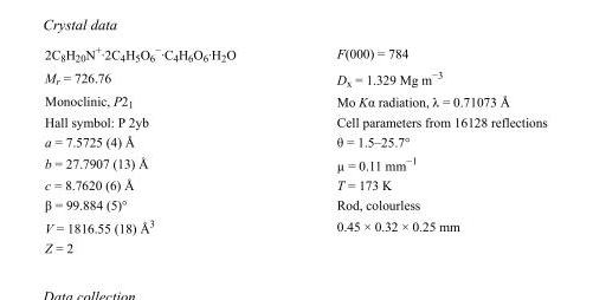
<table><tbody><tr><td>2C<sub>8</sub>H<sub>20</sub>N<sup>+</sup>·2C<sub>4</sub>H<sub>5</sub>O<sub>6</sub> <sup>−</sup>·C<sub>4</sub>H<sub>6</sub>O<sub>6</sub>·H<sub>2</sub>O</td><td>F(000) = 784</td></tr><tr><td>M<sub>r</sub> = 726.76</td><td>D<sub>x</sub> = 1.329 Mg m<sup>−3</sup></td></tr><tr><td>Monoclinic, P2<sub>1</sub></td><td>Mo Kα radiation, λ = 0.71073 Å</td></tr><tr><td>Hall symbol: P 2yb</td><td>Cell parameters from 16128 reflections</td></tr><tr><td>a = 7.5725 (4) Å</td><td>θ = 1.5–25.7°</td></tr><tr><td>b = 27.7907 (13) Å</td><td>µ = 0.11 mm<sup>−1</sup></td></tr><tr><td>c = 8.7620 (6) Å</td><td>T = 173 K</td></tr><tr><td>β = 99.884 (5)°</td><td>Rod, colourless</td></tr><tr><td>V = 1816.55 (18) Å<sup>3</sup></td><td>0.45 × 0.32 × 0.25 mm</td></tr><tr><td>Z = 2</td><td></td></tr></tbody></table>